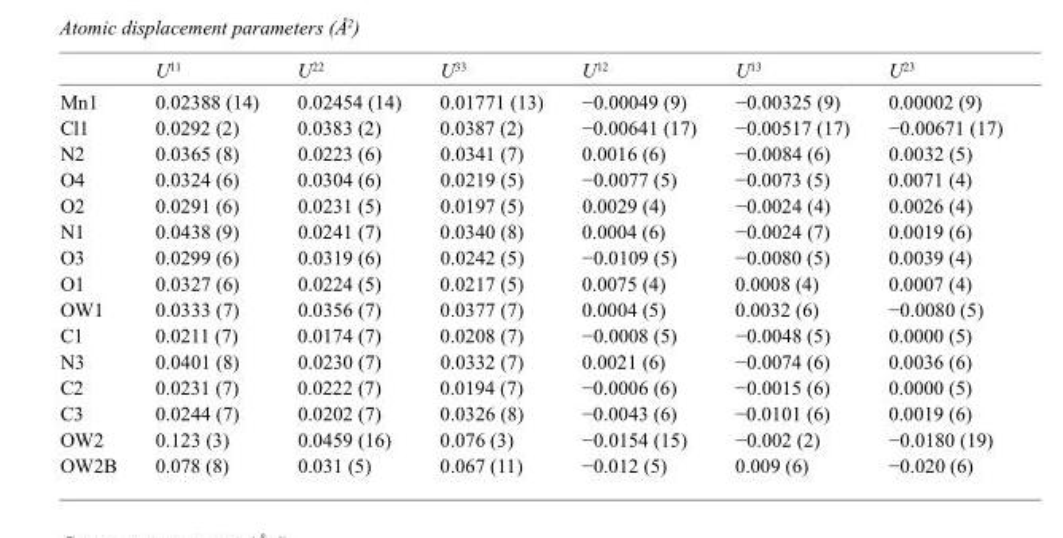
<table><thead><tr><td></td><td>U<sup>11</sup></td><td>U<sup>22</sup></td><td>U<sup>33</sup></td><td>U<sup>12</sup></td><td>U<sup>13</sup></td><td>U<sup>23</sup></td></tr></thead><tbody><tr><td>Mn1</td><td>0.02388 (14)</td><td>0.02454 (14)</td><td>0.01771 (13)</td><td>−0.00049 (9)</td><td>−0.00325 (9)</td><td>0.00002 (9)</td></tr><tr><td>Cl1</td><td>0.0292 (2)</td><td>0.0383 (2)</td><td>0.0387 (2)</td><td>−0.00641 (17)</td><td>−0.00517 (17)</td><td>−0.00671 (17)</td></tr><tr><td>N2</td><td>0.0365 (8)</td><td>0.0223 (6)</td><td>0.0341 (7)</td><td>0.0016 (6)</td><td>−0.0084 (6)</td><td>0.0032 (5)</td></tr><tr><td>O4</td><td>0.0324 (6)</td><td>0.0304 (6)</td><td>0.0219 (5)</td><td>−0.0077 (5)</td><td>−0.0073 (5)</td><td>0.0071 (4)</td></tr><tr><td>O2</td><td>0.0291 (6)</td><td>0.0231 (5)</td><td>0.0197 (5)</td><td>0.0029 (4)</td><td>−0.0024 (4)</td><td>0.0026 (4)</td></tr><tr><td>N1</td><td>0.0438 (9)</td><td>0.0241 (7)</td><td>0.0340 (8)</td><td>0.0004 (6)</td><td>−0.0024 (7)</td><td>0.0019 (6)</td></tr><tr><td>O3</td><td>0.0299 (6)</td><td>0.0319 (6)</td><td>0.0242 (5)</td><td>−0.0109 (5)</td><td>−0.0080 (5)</td><td>0.0039 (4)</td></tr><tr><td>O1</td><td>0.0327 (6)</td><td>0.0224 (5)</td><td>0.0217 (5)</td><td>0.0075 (4)</td><td>0.0008 (4)</td><td>0.0007 (4)</td></tr><tr><td>OW1</td><td>0.0333 (7)</td><td>0.0356 (7)</td><td>0.0377 (7)</td><td>0.0004 (5)</td><td>0.0032 (6)</td><td>−0.0080 (5)</td></tr><tr><td>C1</td><td>0.0211 (7)</td><td>0.0174 (7)</td><td>0.0208 (7)</td><td>−0.0008 (5)</td><td>−0.0048 (5)</td><td>0.0000 (5)</td></tr><tr><td>N3</td><td>0.0401 (8)</td><td>0.0230 (7)</td><td>0.0332 (7)</td><td>0.0021 (6)</td><td>−0.0074 (6)</td><td>0.0036 (6)</td></tr><tr><td>C2</td><td>0.0231 (7)</td><td>0.0222 (7)</td><td>0.0194 (7)</td><td>−0.0006 (6)</td><td>−0.0015 (6)</td><td>0.0000 (5)</td></tr><tr><td>C3</td><td>0.0244 (7)</td><td>0.0202 (7)</td><td>0.0326 (8)</td><td>−0.0043 (6)</td><td>−0.0101 (6)</td><td>0.0019 (6)</td></tr><tr><td>OW2</td><td>0.123 (3)</td><td>0.0459 (16)</td><td>0.076 (3)</td><td>−0.0154 (15)</td><td>−0.002 (2)</td><td>−0.0180 (19)</td></tr><tr><td>OW2B</td><td>0.078 (8)</td><td>0.031 (5)</td><td>0.067 (11)</td><td>−0.012 (5)</td><td>0.009 (6)</td><td>−0.020 (6)</td></tr></tbody></table>